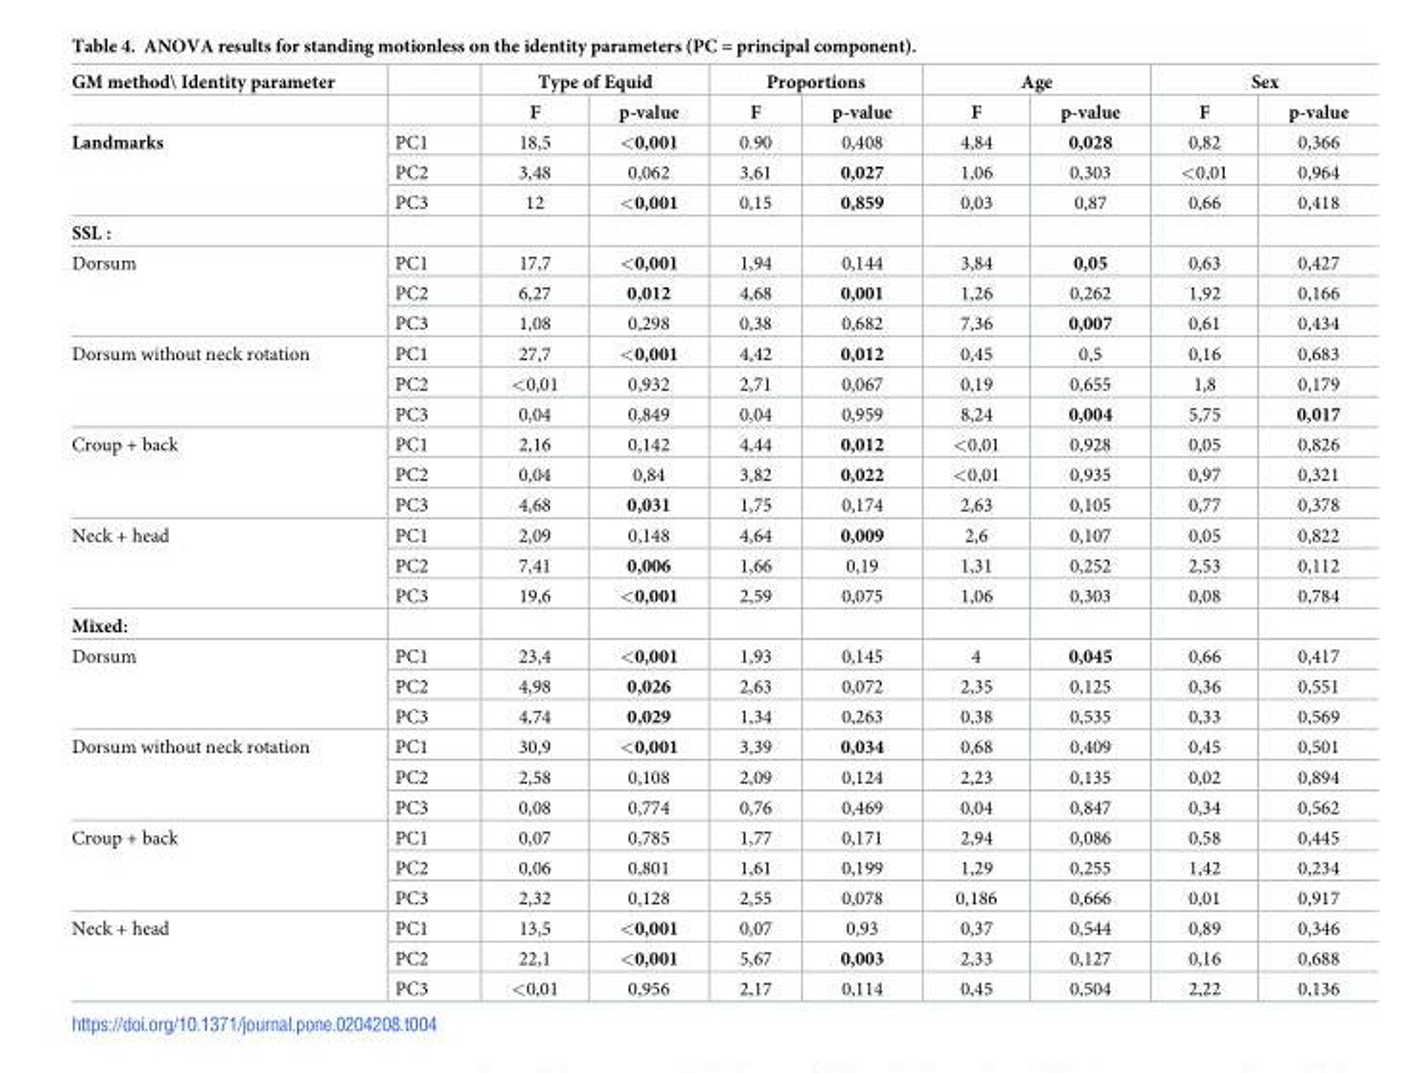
<table><thead><tr><td rowspan="2">GM method\ Identity parameter</td><td rowspan="2"></td><td colspan="2">Type of Equid</td><td colspan="2">Proportions</td><td colspan="2">Age</td><td colspan="2">Sex</td></tr><tr><td>F</td><td>p-value</td><td>F</td><td>p-value</td><td>F</td><td>p-value</td><td>F</td><td>p-value</td></tr></thead><tbody><tr><td rowspan="3">Landmarks</td><td>PC1</td><td>18,5</td><td>&lt;0,001</td><td>0.90</td><td>0,408</td><td>4,84</td><td>0,028</td><td>0,82</td><td>0,366</td></tr><tr><td>PC2</td><td>3,48</td><td>0,062</td><td>3,61</td><td>0,027</td><td>1,06</td><td>0,303</td><td>&lt;0,01</td><td>0,964</td></tr><tr><td>PC3</td><td>12</td><td>&lt;0,001</td><td>0,15</td><td>0,859</td><td>0,03</td><td>0,87</td><td>0,66</td><td>0,418</td></tr><tr><td colspan="10">SSL :</td></tr><tr><td rowspan="3">Dorsum</td><td>PC1</td><td>17,7</td><td>&lt;0,001</td><td>1,94</td><td>0,144</td><td>3,84</td><td>0,05</td><td>0,63</td><td>0,427</td></tr><tr><td>PC2</td><td>6,27</td><td>0,012</td><td>4,68</td><td>0,001</td><td>1,26</td><td>0,262</td><td>1,92</td><td>0,166</td></tr><tr><td>PC3</td><td>1,08</td><td>0,298</td><td>0,38</td><td>0,682</td><td>7,36</td><td>0,007</td><td>0,61</td><td>0,434</td></tr><tr><td rowspan="3">Dorsum without neck rotation</td><td>PC1</td><td>27,7</td><td>&lt;0,001</td><td>4,42</td><td>0,012</td><td>0,45</td><td>0,5</td><td>0,16</td><td>0,683</td></tr><tr><td>PC2</td><td>&lt;0,01</td><td>0,932</td><td>2,71</td><td>0,067</td><td>0,19</td><td>0,655</td><td>1,8</td><td>0,179</td></tr><tr><td>PC3</td><td>0,04</td><td>0,849</td><td>0,04</td><td>0,959</td><td>8,24</td><td>0,004</td><td>5,75</td><td>0,017</td></tr><tr><td rowspan="3">Croup + back</td><td>PC1</td><td>2,16</td><td>0,142</td><td>4,44</td><td>0,012</td><td>&lt;0,01</td><td>0,928</td><td>0,05</td><td>0,826</td></tr><tr><td>PC2</td><td>0,04</td><td>0,84</td><td>3,82</td><td>0,022</td><td>&lt;0,01</td><td>0,935</td><td>0,97</td><td>0,321</td></tr><tr><td>PC3</td><td>4,68</td><td>0,031</td><td>1,75</td><td>0,174</td><td>2,63</td><td>0,105</td><td>0,77</td><td>0,378</td></tr><tr><td rowspan="3">Neck + head</td><td>PC1</td><td>2,09</td><td>0,148</td><td>4,64</td><td>0,009</td><td>2,6</td><td>0,107</td><td>0,05</td><td>0,822</td></tr><tr><td>PC2</td><td>7,41</td><td>0,006</td><td>1,66</td><td>0,19</td><td>1,31</td><td>0,252</td><td>2,53</td><td>0,112</td></tr><tr><td>PC3</td><td>19,6</td><td>&lt;0,001</td><td>2,59</td><td>0,075</td><td>1,06</td><td>0,303</td><td>0,08</td><td>0,784</td></tr><tr><td colspan="10">Mixed:</td></tr><tr><td rowspan="3">Dorsum</td><td>PC1</td><td>23,4</td><td>&lt;0,001</td><td>1,93</td><td>0,145</td><td>4</td><td>0,045</td><td>0,66</td><td>0,417</td></tr><tr><td>PC2</td><td>4,98</td><td>0,026</td><td>2,63</td><td>0,072</td><td>2,35</td><td>0,125</td><td>0,36</td><td>0,551</td></tr><tr><td>PC3</td><td>4,74</td><td>0,029</td><td>1,34</td><td>0,263</td><td>0,38</td><td>0,535</td><td>0,33</td><td>0,569</td></tr><tr><td rowspan="3">Dorsum without neck rotation</td><td>PC1</td><td>30,9</td><td>&lt;0,001</td><td>3,39</td><td>0,034</td><td>0,68</td><td>0,409</td><td>0,45</td><td>0,501</td></tr><tr><td>PC2</td><td>2,58</td><td>0,108</td><td>2,09</td><td>0,124</td><td>2,23</td><td>0,135</td><td>0,02</td><td>0,894</td></tr><tr><td>PC3</td><td>0,08</td><td>0,774</td><td>0,76</td><td>0,469</td><td>0,04</td><td>0,847</td><td>0,34</td><td>0,562</td></tr><tr><td rowspan="3">Croup + back</td><td>PC1</td><td>0,07</td><td>0,785</td><td>1,77</td><td>0,171</td><td>2,94</td><td>0,086</td><td>0,58</td><td>0,445</td></tr><tr><td>PC2</td><td>0,06</td><td>0,801</td><td>1,61</td><td>0,199</td><td>1,29</td><td>0,255</td><td>1,42</td><td>0,234</td></tr><tr><td>PC3</td><td>2,32</td><td>0,128</td><td>2,55</td><td>0,078</td><td>0,186</td><td>0,666</td><td>0,01</td><td>0,917</td></tr><tr><td rowspan="3">Neck + head</td><td>PC1</td><td>13,5</td><td>&lt;0,001</td><td>0,07</td><td>0,93</td><td>0,37</td><td>0,544</td><td>0,89</td><td>0,346</td></tr><tr><td>PC2</td><td>22,1</td><td>&lt;0,001</td><td>5,67</td><td>0,003</td><td>2,33</td><td>0,127</td><td>0,16</td><td>0,688</td></tr><tr><td>PC3</td><td>&lt;0,01</td><td>0,956</td><td>2,17</td><td>0,114</td><td>0,45</td><td>0,504</td><td>2,22</td><td>0,136</td></tr></tbody></table>